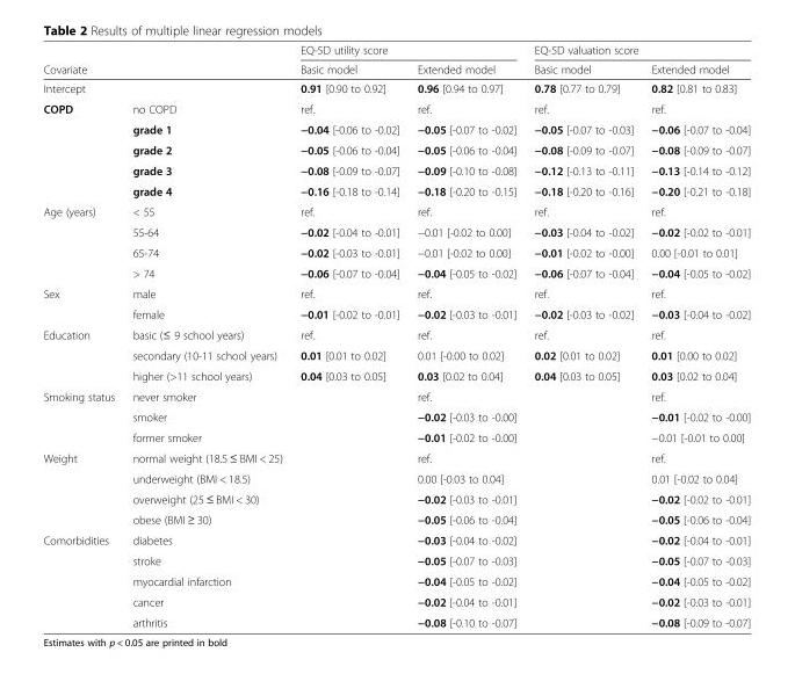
<table><thead><tr><td rowspan="2">Covariate</td><td rowspan="2"></td><td colspan="2">EQ-5D utility score</td><td colspan="2">EQ-5D valuation score</td></tr><tr><td>Basic model</td><td>Extended model</td><td>Basic model</td><td>Extended model</td></tr></thead><tbody><tr><td>Intercept</td><td></td><td>0.91 [0.90 to 0.92]</td><td>0.96 [0.94 to 0.97]</td><td>0.78 [0.77 to 0.79]</td><td>0.82 [0.81 to 0.83]</td></tr><tr><td rowspan="5">COPD</td><td>no COPD</td><td>ref.</td><td>ref.</td><td>ref.</td><td>ref.</td></tr><tr><td>grade 1</td><td>−0.04 [-0.06 to -0.02]</td><td>−0.05 [-0.07 to -0.02]</td><td>−0.05 [-0.07 to -0.03]</td><td>−0.06 [-0.07 to -0.04]</td></tr><tr><td>grade 2</td><td>−0.05 [-0.06 to -0.04]</td><td>−0.05 [-0.06 to -0.04]</td><td>−0.08 [-0.09 to -0.07]</td><td>−0.08 [-0.09 to -0.07]</td></tr><tr><td>grade 3</td><td>−0.08 [-0.09 to -0.07]</td><td>−0.09 [-0.10 to -0.08]</td><td>−0.12 [-0.13 to -0.11]</td><td>−0.13 [-0.14 to -0.12]</td></tr><tr><td>grade 4</td><td>−0.16 [-0.18 to -0.14]</td><td>−0.18 [-0.20 to -0.15]</td><td>−0.18 [-0.20 to -0.16]</td><td>−0.20 [-0.21 to -0.18]</td></tr><tr><td rowspan="4">Age (years)</td><td>&lt; 55</td><td>ref.</td><td>ref.</td><td>ref.</td><td>ref.</td></tr><tr><td>55-64</td><td>−0.02 [-0.04 to -0.01]</td><td>−0.01 [-0.02 to 0.00]</td><td>−0.03 [-0.04 to -0.02]</td><td>−0.02 [-0.02 to -0.01]</td></tr><tr><td>65-74</td><td>−0.02 [-0.03 to -0.01]</td><td>−0.01 [-0.02 to 0.00]</td><td>−0.01 [-0.02 to -0.00]</td><td>0.00 [-0.01 to 0.01]</td></tr><tr><td>&gt; 74</td><td>−0.06 [-0.07 to -0.04]</td><td>−0.04 [-0.05 to -0.02]</td><td>−0.06 [-0.07 to -0.04]</td><td>−0.04 [-0.05 to -0.02]</td></tr><tr><td rowspan="2">Sex</td><td>male</td><td>ref.</td><td>ref.</td><td>ref.</td><td>ref.</td></tr><tr><td>female</td><td>−0.01 [-0.02 to -0.01]</td><td>−0.02 [-0.03 to -0.01]</td><td>−0.02 [-0.03 to -0.02]</td><td>−0.03 [-0.04 to -0.02]</td></tr><tr><td rowspan="3">Education</td><td>basic (≤ 9 school years)</td><td>ref.</td><td>ref.</td><td>ref.</td><td>ref.</td></tr><tr><td>secondary (10-11 school years)</td><td>0.01 [0.01 to 0.02]</td><td>0.01 [-0.00 to 0.02]</td><td>0.02 [0.01 to 0.02]</td><td>0.01 [0.00 to 0.02]</td></tr><tr><td>higher (&gt;11 school years)</td><td>0.04 [0.03 to 0.05]</td><td>0.03 [0.02 to 0.04]</td><td>0.04 [0.03 to 0.05]</td><td>0.03 [0.02 to 0.04]</td></tr><tr><td rowspan="3">Smoking status</td><td>never smoker</td><td></td><td>ref.</td><td></td><td>ref.</td></tr><tr><td>smoker</td><td></td><td>−0.02 [-0.03 to -0.00]</td><td></td><td>−0.01 [-0.02 to -0.00]</td></tr><tr><td>former smoker</td><td></td><td>−0.01 [-0.02 to -0.00]</td><td></td><td>−0.01 [-0.01 to 0.00]</td></tr><tr><td rowspan="4">Weight</td><td>normal weight (18.5 ≤ BMI &lt; 25)</td><td></td><td>ref.</td><td></td><td>ref.</td></tr><tr><td>underweight (BMI &lt; 18.5)</td><td></td><td>0.00 [-0.03 to 0.04]</td><td></td><td>0.01 [-0.02 to 0.04]</td></tr><tr><td>overweight (25 ≤ BMI &lt; 30)</td><td></td><td>−0.02 [-0.03 to -0.01]</td><td></td><td>−0.02 [-0.02 to -0.01]</td></tr><tr><td>obese (BMI ≥ 30)</td><td></td><td>−0.05 [-0.06 to -0.04]</td><td></td><td>−0.05 [-0.06 to -0.04]</td></tr><tr><td rowspan="5">Comorbidities</td><td>diabetes</td><td></td><td>−0.03 [-0.04 to -0.02]</td><td></td><td>−0.02 [-0.04 to -0.01]</td></tr><tr><td>stroke</td><td></td><td>−0.05 [-0.07 to -0.03]</td><td></td><td>−0.05 [-0.07 to -0.03]</td></tr><tr><td>myocardial infarction</td><td></td><td>−0.04 [-0.05 to -0.02]</td><td></td><td>−0.04 [-0.05 to -0.02]</td></tr><tr><td>cancer</td><td></td><td>−0.02 [-0.04 to -0.01]</td><td></td><td>−0.02 [-0.03 to -0.01]</td></tr><tr><td>arthritis</td><td></td><td>−0.08 [-0.10 to -0.07]</td><td></td><td>−0.08 [-0.09 to -0.07]</td></tr></tbody></table>